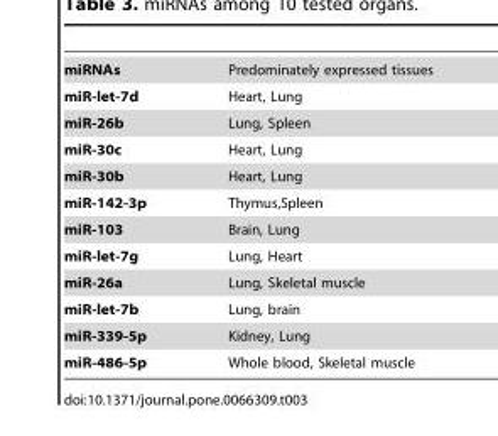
<table><tbody><tr><td>miRNAs</td><td>Predominately expressed tissues</td></tr><tr><td>miR-let-7d</td><td>Heart, Lung</td></tr><tr><td>miR-26b</td><td>Lung, Spleen</td></tr><tr><td>miR-30c</td><td>Heart, Lung</td></tr><tr><td>miR-30b</td><td>Heart, Lung</td></tr><tr><td>miR-142-3p</td><td>Thymus,Spleen</td></tr><tr><td>miR-103</td><td>Brain, Lung</td></tr><tr><td>miR-let-7g</td><td>Lung, Heart</td></tr><tr><td>miR-26a</td><td>Lung, Skeletal muscle</td></tr><tr><td>miR-let-7b</td><td>Lung, brain</td></tr><tr><td>miR-339-5p</td><td>Kidney, Lung</td></tr><tr><td>miR-486-5p</td><td>Whole blood, Skeletal muscle</td></tr></tbody></table>